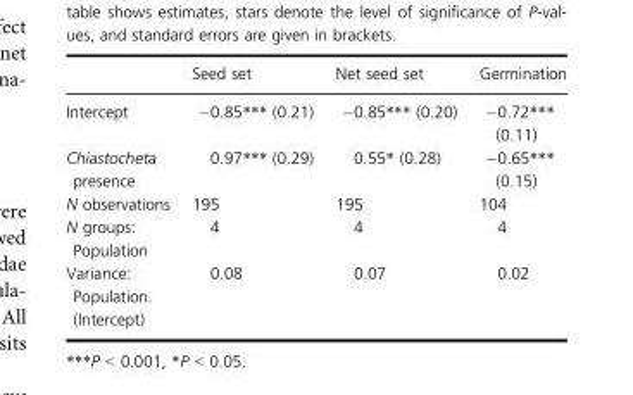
<table><thead><tr><td></td><td>Seed set</td><td>Net seed set</td><td>Germination</td></tr></thead><tbody><tr><td>Intercept</td><td>−0.85*** (0.21)</td><td>−0.85*** (0.20)</td><td>−0.72*** (0.11)</td></tr><tr><td>Chiastocheta presence</td><td>0.97*** (0.29)</td><td>0.55* (0.28)</td><td>−0.65*** (0.15)</td></tr><tr><td>N observations</td><td>195</td><td>195</td><td>104</td></tr><tr><td>N groups: Population</td><td>4</td><td>4</td><td>4</td></tr><tr><td>Variance: Population. (Intercept)</td><td>0.08</td><td>0.07</td><td>0.02</td></tr></tbody></table>